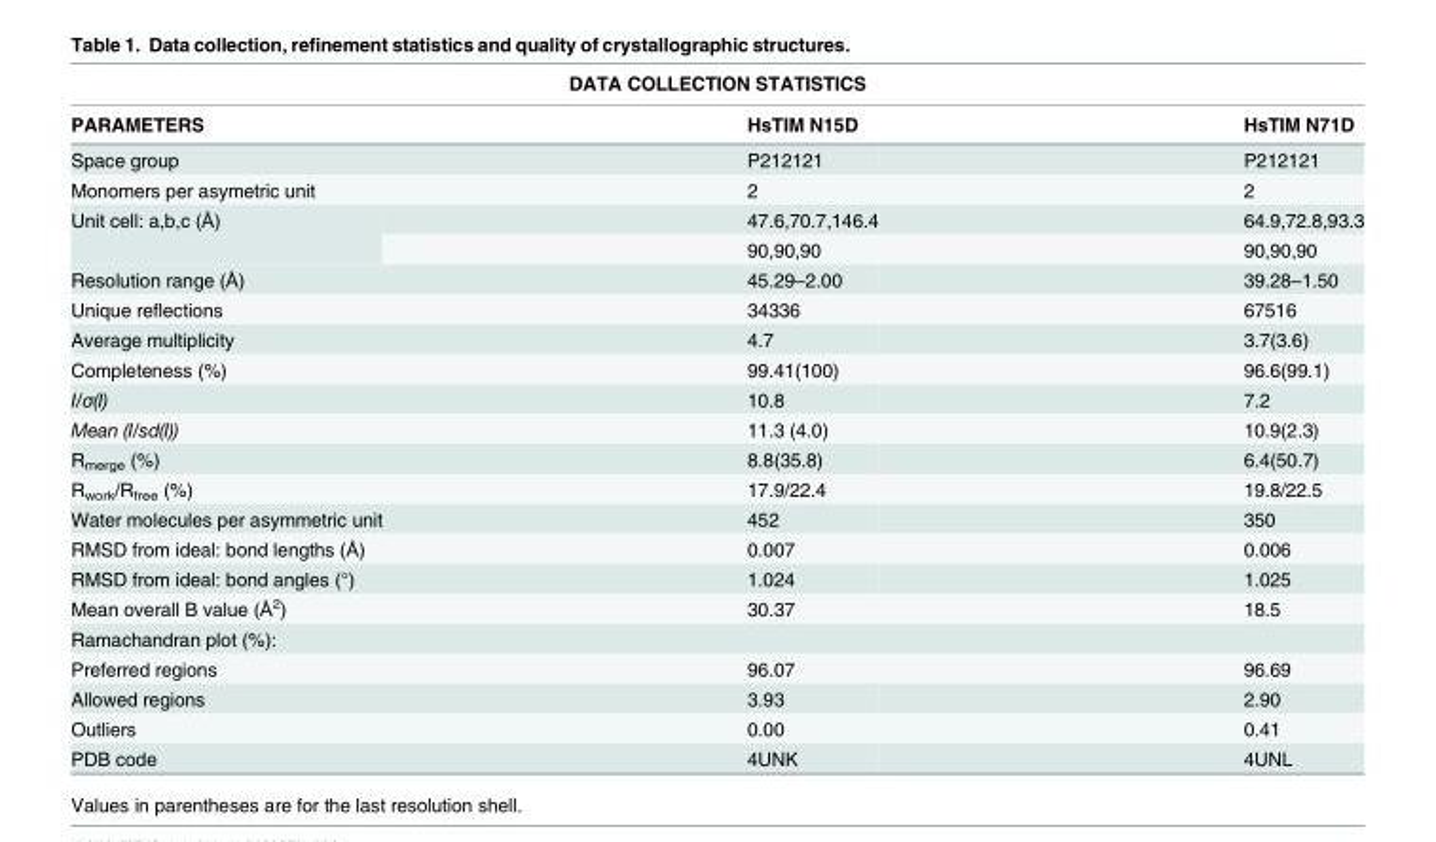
<table><thead><tr><td colspan="3">DATA COLLECTION STATISTICS</td></tr><tr><td>PARAMETERS</td><td>HsTIM N15D</td><td>HsTIM N71D</td></tr></thead><tbody><tr><td>Space group</td><td>P212121</td><td>P212121</td></tr><tr><td>Monomers per asymetric unit</td><td>2</td><td>2</td></tr><tr><td rowspan="2">Unit cell: a,b,c (Å)</td><td>47.6,70.7,146.4</td><td>64.9,72.8,93.3</td></tr><tr><td>90,90,90</td><td>90,90,90</td></tr><tr><td>Resolution range (Å)</td><td>45.29–2.00</td><td>39.28–1.50</td></tr><tr><td>Unique reflections</td><td>34336</td><td>67516</td></tr><tr><td>Average multiplicity</td><td>4.7</td><td>3.7(3.6)</td></tr><tr><td>Completeness (%)</td><td>99.41(100)</td><td>96.6(99.1)</td></tr><tr><td>I/σ(I)</td><td>10.8</td><td>7.2</td></tr><tr><td>Mean (I/sd(I))</td><td>11.3 (4.0)</td><td>10.9(2.3)</td></tr><tr><td>R<sub>merge</sub> (%)</td><td>8.8(35.8)</td><td>6.4(50.7)</td></tr><tr><td>R<sub>work</sub>/R<sub>free</sub> (%)</td><td>17.9/22.4</td><td>19.8/22.5</td></tr><tr><td>Water molecules per asymmetric unit</td><td>452</td><td>350</td></tr><tr><td>RMSD from ideal: bond lengths (Å)</td><td>0.007</td><td>0.006</td></tr><tr><td>RMSD from ideal: bond angles (°)</td><td>1.024</td><td>1.025</td></tr><tr><td>Mean overall B value (Å<sup>2</sup>)</td><td>30.37</td><td>18.5</td></tr><tr><td colspan="3">Ramachandran plot (%):</td></tr><tr><td>Preferred regions</td><td>96.07</td><td>96.69</td></tr><tr><td>Allowed regions</td><td>3.93</td><td>2.90</td></tr><tr><td>Outliers</td><td>0.00</td><td>0.41</td></tr><tr><td>PDB code</td><td>4UNK</td><td>4UNL</td></tr></tbody></table>